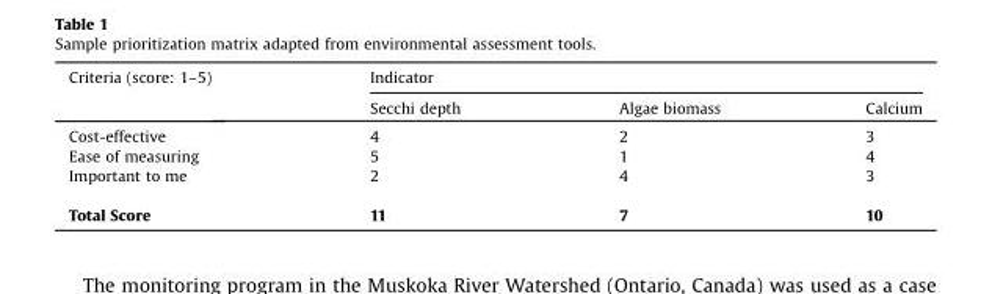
<table><thead><tr><td rowspan="2">Criteria (score: 1–5)</td><td colspan="3">Indicator</td></tr><tr><td>Secchi depth</td><td>Algae biomass</td><td>Calcium</td></tr></thead><tbody><tr><td>Cost-effective</td><td>4</td><td>2</td><td>3</td></tr><tr><td>Ease of measuring</td><td>5</td><td>1</td><td>4</td></tr><tr><td>Important to me</td><td>2</td><td>4</td><td>3</td></tr><tr><td>Total Score</td><td>11</td><td>7</td><td>10</td></tr></tbody></table>